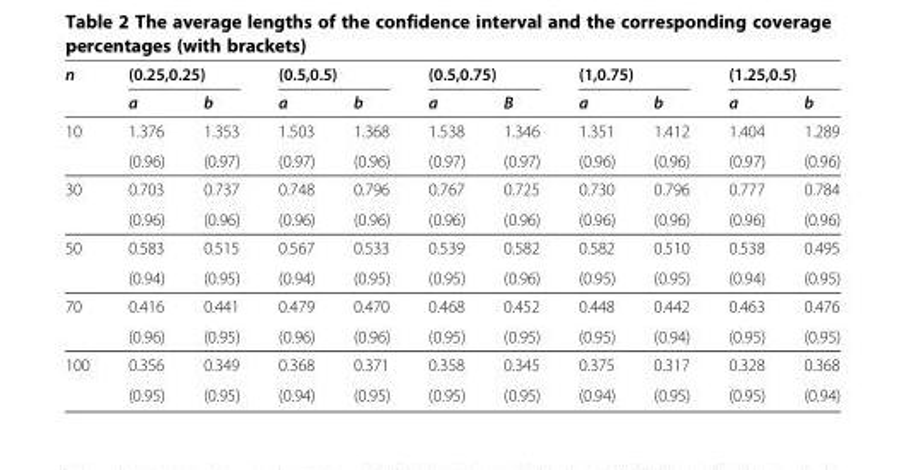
<table><thead><tr><td rowspan="2">n</td><td colspan="2">(0.25,0.25)</td><td colspan="2">(0.5,0.5)</td><td colspan="2">(0.5,0.75)</td><td colspan="2">(1,0.75)</td><td colspan="2">(1.25,0.5)</td></tr><tr><td>a</td><td>b</td><td>a</td><td>b</td><td>a</td><td>B</td><td>a</td><td>b</td><td>a</td><td>b</td></tr></thead><tbody><tr><td rowspan="2">10</td><td>1.376</td><td>1.353</td><td>1.503</td><td>1.368</td><td>1.538</td><td>1.346</td><td>1.351</td><td>1.412</td><td>1.404</td><td>1.289</td></tr><tr><td>(0.96)</td><td>(0.97)</td><td>(0.97)</td><td>(0.96)</td><td>(0.97)</td><td>(0.97)</td><td>(0.96)</td><td>(0.96)</td><td>(0.97)</td><td>(0.96)</td></tr><tr><td rowspan="2">30</td><td>0.703</td><td>0.737</td><td>0.748</td><td>0.796</td><td>0.767</td><td>0.725</td><td>0.730</td><td>0.796</td><td>0.777</td><td>0.784</td></tr><tr><td>(0.96)</td><td>(0.96)</td><td>(0.96)</td><td>(0.96)</td><td>(0.96)</td><td>(0.96)</td><td>(0.96)</td><td>(0.96)</td><td>(0.96)</td><td>(0.96)</td></tr><tr><td rowspan="2">50</td><td>0.583</td><td>0.515</td><td>0.567</td><td>0.533</td><td>0.539</td><td>0.582</td><td>0.582</td><td>0.510</td><td>0.538</td><td>0.495</td></tr><tr><td>(0.94)</td><td>(0.95)</td><td>(0.94)</td><td>(0.95)</td><td>(0.95)</td><td>(0.96)</td><td>(0.95)</td><td>(0.95)</td><td>(0.94)</td><td>(0.95)</td></tr><tr><td rowspan="2">70</td><td>0.416</td><td>0.441</td><td>0.479</td><td>0.470</td><td>0.468</td><td>0.452</td><td>0.448</td><td>0.442</td><td>0.463</td><td>0.476</td></tr><tr><td>(0.96)</td><td>(0.95)</td><td>(0.96)</td><td>(0.96)</td><td>(0.95)</td><td>(0.95)</td><td>(0.95)</td><td>(0.94)</td><td>(0.95)</td><td>(0.95)</td></tr><tr><td rowspan="2">100</td><td>0.356</td><td>0.349</td><td>0.368</td><td>0.371</td><td>0.358</td><td>0.345</td><td>0.375</td><td>0.317</td><td>0.328</td><td>0.368</td></tr><tr><td>(0.95)</td><td>(0.95)</td><td>(0.94)</td><td>(0.95)</td><td>(0.95)</td><td>(0.95)</td><td>(0.94)</td><td>(0.95)</td><td>(0.95)</td><td>(0.94)</td></tr></tbody></table>